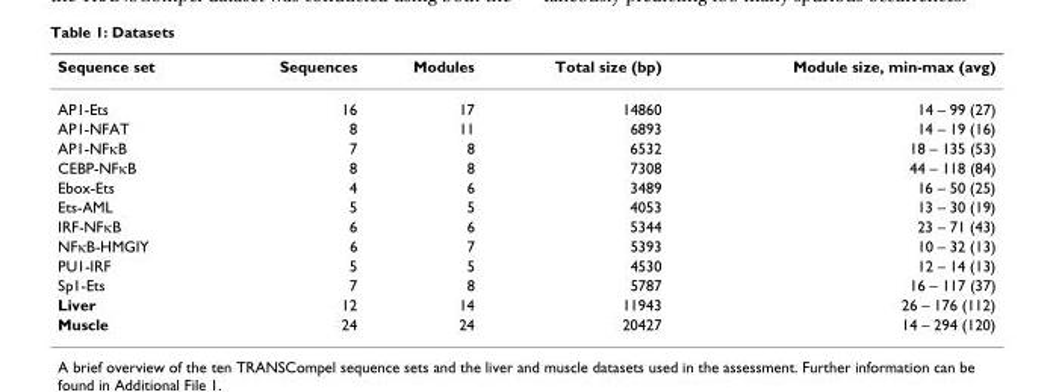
<table><thead><tr><td>Sequence set</td><td>Sequences</td><td>Modules</td><td>Total size (bp)</td><td>Module size, min-max (avg)</td></tr></thead><tbody><tr><td>AP1-Ets</td><td>16</td><td>17</td><td>14860</td><td>14 – 99 (27)</td></tr><tr><td>AP1-NFAT</td><td>8</td><td>11</td><td>6893</td><td>14 – 19 (16)</td></tr><tr><td>AP1-NFκB</td><td>7</td><td>8</td><td>6532</td><td>18 – 135 (53)</td></tr><tr><td>CEBP-NFκB</td><td>8</td><td>8</td><td>7308</td><td>44 – 118 (84)</td></tr><tr><td>Ebox-Ets</td><td>4</td><td>6</td><td>3489</td><td>16 – 50 (25)</td></tr><tr><td>Ets-AML</td><td>5</td><td>5</td><td>4053</td><td>13 – 30 (19)</td></tr><tr><td>IRF-NFκB</td><td>6</td><td>6</td><td>5344</td><td>23 – 71 (43)</td></tr><tr><td>NFκB-HMGIY</td><td>6</td><td>7</td><td>5393</td><td>10 – 32 (13)</td></tr><tr><td>PU1-IRF</td><td>5</td><td>5</td><td>4530</td><td>12 – 14 (13)</td></tr><tr><td>Sp1-Ets</td><td>7</td><td>8</td><td>5787</td><td>16 – 117 (37)</td></tr><tr><td>Liver</td><td>12</td><td>14</td><td>11943</td><td>26 – 176 (112)</td></tr><tr><td>Muscle</td><td>24</td><td>24</td><td>20427</td><td>14 – 294 (120)</td></tr></tbody></table>